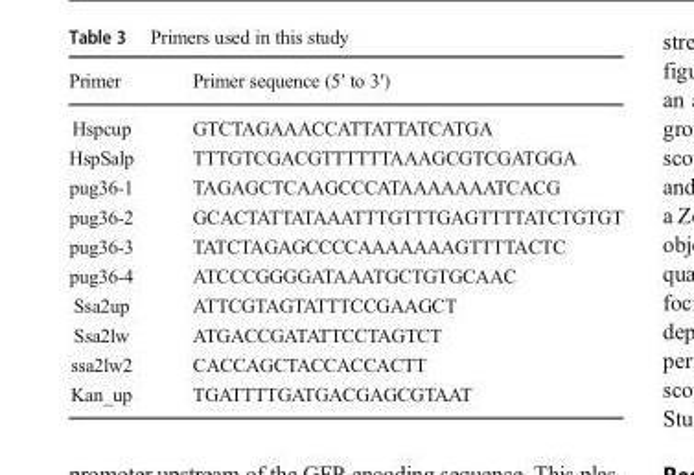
<table><thead><tr><td>Primer</td><td>Primer sequence (5′ to 3′)</td></tr></thead><tbody><tr><td>Hspcup</td><td>GTCTAGAAACCATTATTATCATGA</td></tr><tr><td>HspSalp</td><td>TTTGTCGACGTTTTTTAAAGCGTCGATGGA</td></tr><tr><td>pug36-1</td><td>TAGAGCTCAAGCCCATAAAAAAATCACG</td></tr><tr><td>pug36-2</td><td>GCACTATTATAAATTTGTTTGAGTTTTATCTGTGT</td></tr><tr><td>pug36-3</td><td>TATCTAGAGCCCCAAAAAAAGTTTTACTC</td></tr><tr><td>pug36-4</td><td>ATCCCGGGGATAAATGCTGTGCAAC</td></tr><tr><td>Ssa2up</td><td>ATTCGTAGTATTTCCGAAGCT</td></tr><tr><td>Ssa2lw</td><td>ATGACCGATATTCCTAGTCT</td></tr><tr><td>ssa2lw2</td><td>CACCAGCTACCACCACTT</td></tr><tr><td>Kan_up</td><td>TGATTTTGATGACGAGCGTAAT</td></tr></tbody></table>